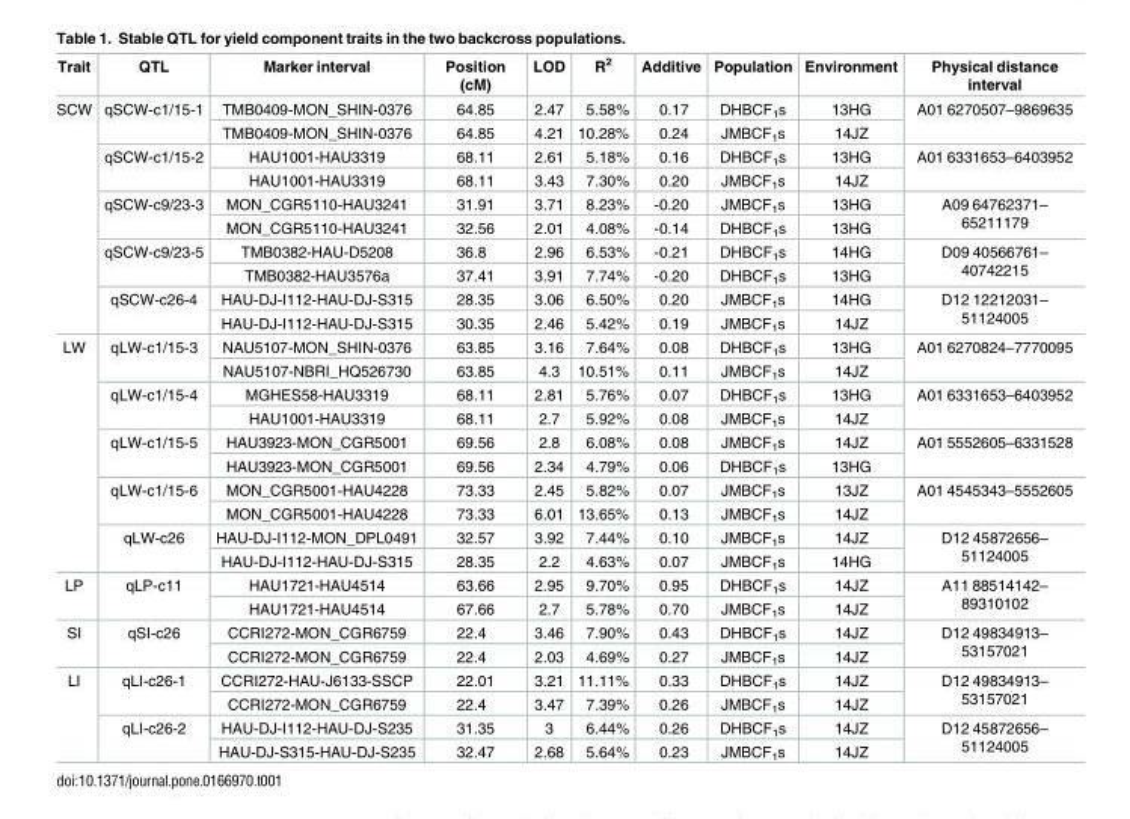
<table><thead><tr><td>Trait</td><td>QTL</td><td>Marker interval</td><td>Position (cM)</td><td>LOD</td><td>R<sup>2</sup></td><td>Additive</td><td>Population</td><td>Environment</td><td>Physical distance interval</td></tr></thead><tbody><tr><td rowspan="10">SCW</td><td rowspan="2">qSCW-c1/15-1</td><td>TMB0409-MON_SHIN-0376</td><td>64.85</td><td>2.47</td><td>5.58%</td><td>0.17</td><td>DHBCF<sub>1</sub>s</td><td>13HG</td><td rowspan="2">A01 6270507–9869635</td></tr><tr><td>TMB0409-MON_SHIN-0376</td><td>64.85</td><td>4.21</td><td>10.28%</td><td>0.24</td><td>JMBCF<sub>1</sub>s</td><td>14JZ</td></tr><tr><td rowspan="2">qSCW-c1/15-2</td><td>HAU1001-HAU3319</td><td>68.11</td><td>2.61</td><td>5.18%</td><td>0.16</td><td>DHBCF<sub>1</sub>s</td><td>13HG</td><td rowspan="2">A01 6331653–6403952</td></tr><tr><td>HAU1001-HAU3319</td><td>68.11</td><td>3.43</td><td>7.30%</td><td>0.20</td><td>JMBCF<sub>1</sub>s</td><td>14JZ</td></tr><tr><td rowspan="2">qSCW-c9/23-3</td><td>MON_CGR5110-HAU3241</td><td>31.91</td><td>3.71</td><td>8.23%</td><td>-0.20</td><td>JMBCF<sub>1</sub>s</td><td>13HG</td><td rowspan="2">A09 64762371– 65211179</td></tr><tr><td>MON_CGR5110-HAU3241</td><td>32.56</td><td>2.01</td><td>4.08%</td><td>-0.14</td><td>DHBCF<sub>1</sub>s</td><td>13HG</td></tr><tr><td rowspan="2">qSCW-c9/23-5</td><td>TMB0382-HAU-D5208</td><td>36.8</td><td>2.96</td><td>6.53%</td><td>-0.21</td><td>DHBCF<sub>1</sub>s</td><td>14HG</td><td rowspan="2">D09 40566761– 40742215</td></tr><tr><td>TMB0382-HAU3576a</td><td>37.41</td><td>3.91</td><td>7.74%</td><td>-0.20</td><td>DHBCF<sub>1</sub>s</td><td>13HG</td></tr><tr><td rowspan="2">qSCW-c26-4</td><td>HAU-DJ-I112-HAU-DJ-S315</td><td>28.35</td><td>3.06</td><td>6.50%</td><td>0.20</td><td>JMBCF<sub>1</sub>s</td><td>14HG</td><td rowspan="2">D12 12212031– 51124005</td></tr><tr><td>HAU-DJ-I112-HAU-DJ-S315</td><td>30.35</td><td>2.46</td><td>5.42%</td><td>0.19</td><td>JMBCF<sub>1</sub>s</td><td>14JZ</td></tr><tr><td rowspan="10">LW</td><td rowspan="2">qLW-c1/15-3</td><td>NAU5107-MON_SHIN-0376</td><td>63.85</td><td>3.16</td><td>7.64%</td><td>0.08</td><td>DHBCF<sub>1</sub>s</td><td>13HG</td><td rowspan="2">A01 6270824–7770095</td></tr><tr><td>NAU5107-NBRI_HQ526730</td><td>63.85</td><td>4.3</td><td>10.51%</td><td>0.11</td><td>JMBCF<sub>1</sub>s</td><td>14JZ</td></tr><tr><td rowspan="2">qLW-c1/15-4</td><td>MGHES58-HAU3319</td><td>68.11</td><td>2.81</td><td>5.76%</td><td>0.07</td><td>DHBCF<sub>1</sub>s</td><td>13HG</td><td rowspan="2">A01 6331653–6403952</td></tr><tr><td>HAU1001-HAU3319</td><td>68.11</td><td>2.7</td><td>5.92%</td><td>0.08</td><td>JMBCF<sub>1</sub>s</td><td>14JZ</td></tr><tr><td rowspan="2">qLW-c1/15-5</td><td>HAU3923-MON_CGR5001</td><td>69.56</td><td>2.8</td><td>6.08%</td><td>0.08</td><td>JMBCF<sub>1</sub>s</td><td>14JZ</td><td rowspan="2">A01 5552605–6331528</td></tr><tr><td>HAU3923-MON_CGR5001</td><td>69.56</td><td>2.34</td><td>4.79%</td><td>0.06</td><td>DHBCF<sub>1</sub>s</td><td>13HG</td></tr><tr><td rowspan="2">qLW-c1/15-6</td><td>MON_CGR5001-HAU4228</td><td>73.33</td><td>2.45</td><td>5.82%</td><td>0.07</td><td>JMBCF<sub>1</sub>s</td><td>13JZ</td><td rowspan="2">A01 4545343–5552605</td></tr><tr><td>MON_CGR5001-HAU4228</td><td>73.33</td><td>6.01</td><td>13.65%</td><td>0.13</td><td>JMBCF<sub>1</sub>s</td><td>14JZ</td></tr><tr><td rowspan="2">qLW-c26</td><td>HAU-DJ-I112-MON_DPL0491</td><td>32.57</td><td>3.92</td><td>7.44%</td><td>0.10</td><td>JMBCF<sub>1</sub>s</td><td>14JZ</td><td rowspan="2">D12 45872656– 51124005</td></tr><tr><td>HAU-DJ-I112-HAU-DJ-S315</td><td>28.35</td><td>2.2</td><td>4.63%</td><td>0.07</td><td>JMBCF<sub>1</sub>s</td><td>14HG</td></tr><tr><td rowspan="2">LP</td><td rowspan="2">qLP-c11</td><td>HAU1721-HAU4514</td><td>63.66</td><td>2.95</td><td>9.70%</td><td>0.95</td><td>DHBCF<sub>1</sub>s</td><td>14JZ</td><td rowspan="2">A11 88514142– 89310102</td></tr><tr><td>HAU1721-HAU4514</td><td>67.66</td><td>2.7</td><td>5.78%</td><td>0.70</td><td>JMBCF<sub>1</sub>s</td><td>14JZ</td></tr><tr><td rowspan="2">SI</td><td rowspan="2">qSI-c26</td><td>CCRI272-MON_CGR6759</td><td>22.4</td><td>3.46</td><td>7.90%</td><td>0.43</td><td>DHBCF<sub>1</sub>s</td><td>14JZ</td><td rowspan="2">D12 49834913– 53157021</td></tr><tr><td>CCRI272-MON_CGR6759</td><td>22.4</td><td>2.03</td><td>4.69%</td><td>0.27</td><td>JMBCF<sub>1</sub>s</td><td>14JZ</td></tr><tr><td rowspan="4">LI</td><td rowspan="2">qLI-c26-1</td><td>CCRI272-HAU-J6133-SSCP</td><td>22.01</td><td>3.21</td><td>11.11%</td><td>0.33</td><td>DHBCF<sub>1</sub>s</td><td>14JZ</td><td rowspan="2">D12 49834913– 53157021</td></tr><tr><td>CCRI272-MON_CGR6759</td><td>22.4</td><td>3.47</td><td>7.39%</td><td>0.26</td><td>JMBCF<sub>1</sub>s</td><td>14JZ</td></tr><tr><td rowspan="2">qLI-c26-2</td><td>HAU-DJ-I112-HAU-DJ-S235</td><td>31.35</td><td>3</td><td>6.44%</td><td>0.26</td><td>DHBCF<sub>1</sub>s</td><td>14JZ</td><td rowspan="2">D12 45872656– 51124005</td></tr><tr><td>HAU-DJ-S315-HAU-DJ-S235</td><td>32.47</td><td>2.68</td><td>5.64%</td><td>0.23</td><td>JMBCF<sub>1</sub>s</td><td>14JZ</td></tr></tbody></table>